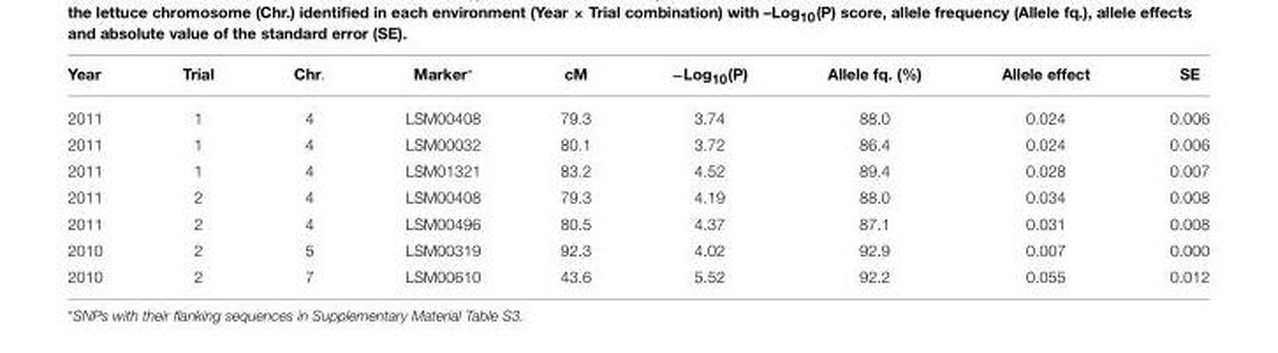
<table><thead><tr><td>Year</td><td>Trial</td><td>Chr.</td><td>Marker*</td><td>cM</td><td>−Log<sub>10</sub>(P)</td><td>Allele fq. (%)</td><td>Allele effect</td><td>SE</td></tr></thead><tbody><tr><td>2011</td><td>1</td><td>4</td><td>LSM00408</td><td>79.3</td><td>3.74</td><td>88.0</td><td>0.024</td><td>0.006</td></tr><tr><td>2011</td><td>1</td><td>4</td><td>LSM00032</td><td>80.1</td><td>3.72</td><td>86.4</td><td>0.024</td><td>0.006</td></tr><tr><td>2011</td><td>1</td><td>4</td><td>LSM01321</td><td>83.2</td><td>4.52</td><td>89.4</td><td>0.028</td><td>0.007</td></tr><tr><td>2011</td><td>2</td><td>4</td><td>LSM00408</td><td>79.3</td><td>4.19</td><td>88.0</td><td>0.034</td><td>0.008</td></tr><tr><td>2011</td><td>2</td><td>4</td><td>LSM00496</td><td>80.5</td><td>4.37</td><td>87.1</td><td>0.031</td><td>0.008</td></tr><tr><td>2010</td><td>2</td><td>5</td><td>LSM00319</td><td>92.3</td><td>4.02</td><td>92.9</td><td>0.007</td><td>0.000</td></tr><tr><td>2010</td><td>2</td><td>7</td><td>LSM00610</td><td>43.6</td><td>5.52</td><td>92.2</td><td>0.055</td><td>0.012</td></tr></tbody></table>